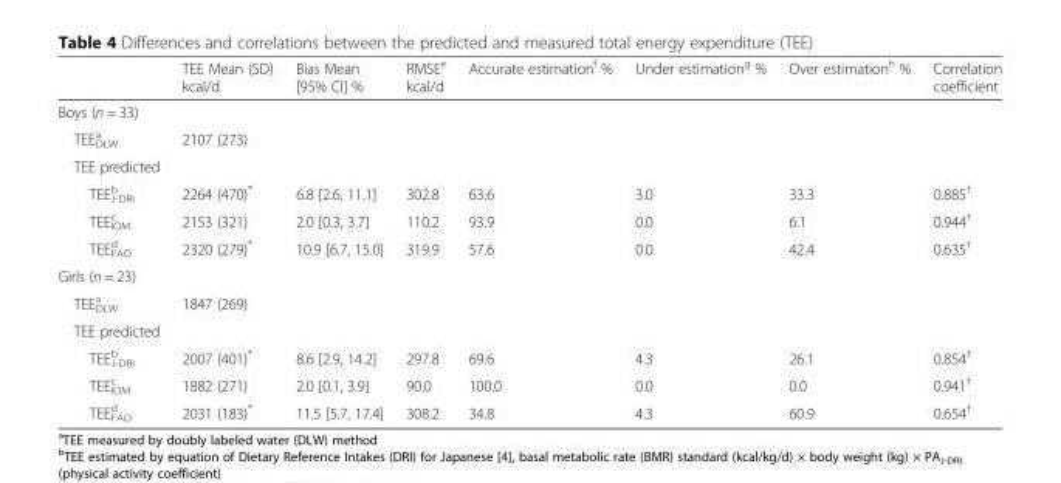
<table><thead><tr><td></td><td>TEE Mean (SD) kcal/d</td><td>Bias Mean [95% CI] %</td><td>RMSE<sup>e</sup> kcal/d</td><td>Accurate estimation<sup>f</sup> %</td><td>Under estimation<sup>g</sup> %</td><td>Over estimation<sup>h</sup> %</td><td>Correlation coefficient</td></tr></thead><tbody><tr><td colspan="8">Boys (n = 33)</td></tr><tr><td>TEE<sub>DLW</sub> <sup>a</sup></td><td>2107 (273)</td><td></td><td></td><td></td><td></td><td></td><td></td></tr><tr><td colspan="8">TEE predicted</td></tr><tr><td>TEE<sub>J-DRI</sub> <sup>b</sup></td><td>2264 (470)*</td><td>6.8 [2.6, 11.1]</td><td>302.8</td><td>63.6</td><td>3.0</td><td>33.3</td><td>0.885<sup>†</sup></td></tr><tr><td>TEE<sub>IOM</sub> <sup>c</sup></td><td>2153 (321)</td><td>2.0 [0.3, 3.7]</td><td>110.2</td><td>93.9</td><td>0.0</td><td>6.1</td><td>0.944<sup>†</sup></td></tr><tr><td>TEE<sub>FAO</sub> <sup>d</sup></td><td>2320 (279)*</td><td>10.9 [6.7, 15.0]</td><td>319.9</td><td>57.6</td><td>0.0</td><td>42.4</td><td>0.635<sup>†</sup></td></tr><tr><td colspan="8">Girls (n = 23)</td></tr><tr><td>TEE<sub>DLW</sub> <sup>a</sup></td><td>1847 (269)</td><td></td><td></td><td></td><td></td><td></td><td></td></tr><tr><td colspan="8">TEE predicted</td></tr><tr><td>TEE<sub>J-DRI</sub> <sup>b</sup></td><td>2007 (401)*</td><td>8.6 [2.9, 14.2]</td><td>297.8</td><td>69.6</td><td>4.3</td><td>26.1</td><td>0.854<sup>†</sup></td></tr><tr><td>TEE<sub>IOM</sub> <sup>c</sup></td><td>1882 (271)</td><td>2.0 [0.1, 3.9]</td><td>90.0</td><td>100.0</td><td>0.0</td><td>0.0</td><td>0.941<sup>†</sup></td></tr><tr><td>TEE<sub>FAO</sub> <sup>d</sup></td><td>2031 (183)*</td><td>11.5 [5.7, 17.4]</td><td>308.2</td><td>34.8</td><td>4.3</td><td>60.9</td><td>0.654<sup>†</sup></td></tr></tbody></table>